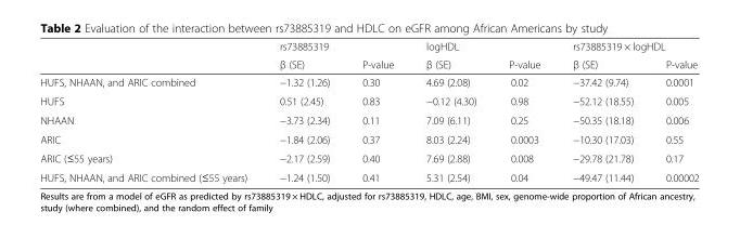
<table><thead><tr><td rowspan="2"></td><td colspan="2">rs73885319</td><td colspan="2">logHDL</td><td colspan="2">rs73885319 × logHDL</td></tr><tr><td>β (SE)</td><td>P-value</td><td>β (SE)</td><td>P-value</td><td>β (SE)</td><td>P-value</td></tr></thead><tbody><tr><td>HUFS, NHAAN, and ARIC combined</td><td>−1.32 (1.26)</td><td>0.30</td><td>4.69 (2.08)</td><td>0.02</td><td>−37.42 (9.74)</td><td>0.0001</td></tr><tr><td>HUFS</td><td>0.51 (2.45)</td><td>0.83</td><td>−0.12 (4.30)</td><td>0.98</td><td>−52.12 (18.55)</td><td>0.005</td></tr><tr><td>NHAAN</td><td>−3.73 (2.34)</td><td>0.11</td><td>7.09 (6.11)</td><td>0.25</td><td>−50.35 (18.18)</td><td>0.006</td></tr><tr><td>ARIC</td><td>−1.84 (2.06)</td><td>0.37</td><td>8.03 (2.24)</td><td>0.0003</td><td>−10.30 (17.03)</td><td>0.55</td></tr><tr><td>ARIC (≤55 years)</td><td>−2.17 (2.59)</td><td>0.40</td><td>7.69 (2.88)</td><td>0.008</td><td>−29.78 (21.78)</td><td>0.17</td></tr><tr><td>HUFS, NHAAN, and ARIC combined (≤55 years)</td><td>−1.24 (1.50)</td><td>0.41</td><td>5.31 (2.54)</td><td>0.04</td><td>−49.47 (11.44)</td><td>0.00002</td></tr></tbody></table>